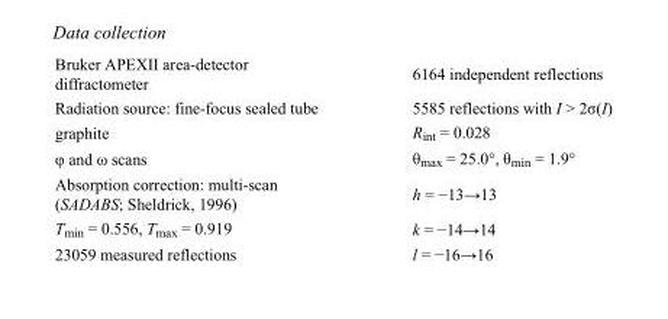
<table><tbody><tr><td>Bruker APEXII area-detector diffractometer</td><td>6164 independent reflections</td></tr><tr><td>Radiation source: fine-focus sealed tube</td><td>5585 reflections with I &gt; 2σ(I)</td></tr><tr><td>graphite</td><td>R<sub>int</sub> = 0.028</td></tr><tr><td>φ and ω scans</td><td>θ<sub>max</sub> = 25.0°, θ<sub>min</sub> = 1.9°</td></tr><tr><td>Absorption correction: multi-scan (SADABS; Sheldrick, 1996)</td><td>h = −13→13</td></tr><tr><td>T<sub>min</sub> = 0.556, T<sub>max</sub> = 0.919</td><td>k = −14→14</td></tr><tr><td>23059 measured reflections</td><td>l = −16→16</td></tr></tbody></table>